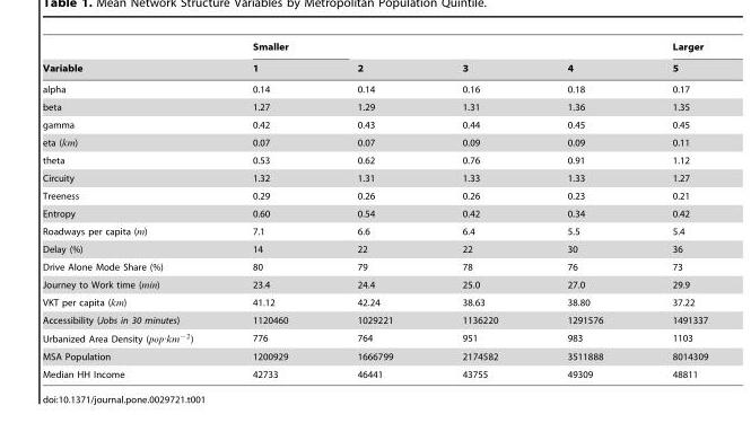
<table><thead><tr><td rowspan="2">Variable</td><td rowspan="2">Smaller 1</td><td rowspan="2">2</td><td rowspan="2">3</td><td rowspan="2">4</td><td rowspan="2">Larger 5</td></tr><tr></tr></thead><tbody><tr><td>alpha</td><td>0.14</td><td>0.14</td><td>0.16</td><td>0.18</td><td>0.17</td></tr><tr><td>beta</td><td>1.27</td><td>1.29</td><td>1.31</td><td>1.36</td><td>1.35</td></tr><tr><td>gamma</td><td>0.42</td><td>0.43</td><td>0.44</td><td>0.45</td><td>0.45</td></tr><tr><td>eta (km)</td><td>0.07</td><td>0.07</td><td>0.09</td><td>0.09</td><td>0.11</td></tr><tr><td>theta</td><td>0.53</td><td>0.62</td><td>0.76</td><td>0.91</td><td>1.12</td></tr><tr><td>Circuity</td><td>1.32</td><td>1.31</td><td>1.33</td><td>1.33</td><td>1.27</td></tr><tr><td>Treeness</td><td>0.29</td><td>0.26</td><td>0.26</td><td>0.23</td><td>0.21</td></tr><tr><td>Entropy</td><td>0.60</td><td>0.54</td><td>0.42</td><td>0.34</td><td>0.42</td></tr><tr><td>Roadways per capita (m)</td><td>7.1</td><td>6.6</td><td>6.4</td><td>5.5</td><td>5.4</td></tr><tr><td>Delay (%)</td><td>14</td><td>22</td><td>22</td><td>30</td><td>36</td></tr><tr><td>Drive Alone Mode Share (%)</td><td>80</td><td>79</td><td>78</td><td>76</td><td>73</td></tr><tr><td>Journey to Work time (min)</td><td>23.4</td><td>24.4</td><td>25.0</td><td>27.0</td><td>29.9</td></tr><tr><td>VKT per capita (km)</td><td>41.12</td><td>42.24</td><td>38.63</td><td>38.80</td><td>37.22</td></tr><tr><td>Accessibility (Jobs in 30 minutes)</td><td>1120460</td><td>1029221</td><td>1136220</td><td>1291576</td><td>1491337</td></tr><tr><td>Urbanized Area Density (pop:km{2)</td><td>776</td><td>764</td><td>951</td><td>983</td><td>1103</td></tr><tr><td>MSA Population</td><td>1200929</td><td>1666799</td><td>2174582</td><td>3511888</td><td>8014309</td></tr><tr><td>Median HH Income</td><td>42733</td><td>46441</td><td>43755</td><td>49309</td><td>48811</td></tr></tbody></table>